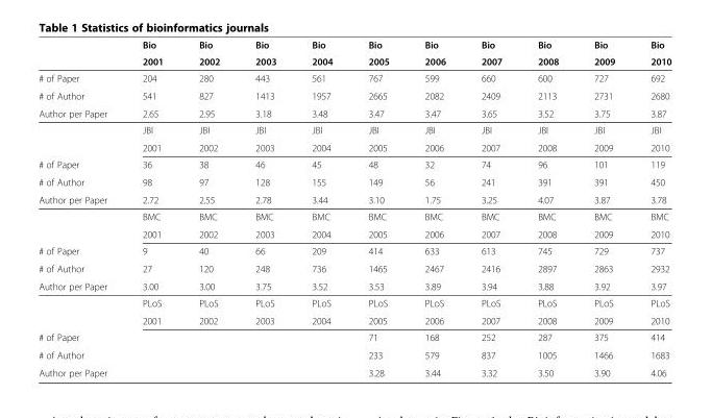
<table><thead><tr><td rowspan="2"></td><td rowspan="2">Bio 2001</td><td rowspan="2">Bio 2002</td><td rowspan="2">Bio 2003</td><td rowspan="2">Bio 2004</td><td rowspan="2">Bio 2005</td><td rowspan="2">Bio 2006</td><td rowspan="2">Bio 2007</td><td rowspan="2">Bio 2008</td><td rowspan="2">Bio 2009</td><td rowspan="2">Bio 2010</td></tr><tr></tr></thead><tbody><tr><td># of Paper</td><td>204</td><td>280</td><td>443</td><td>561</td><td>767</td><td>599</td><td>660</td><td>600</td><td>727</td><td>692</td></tr><tr><td># of Author</td><td>541</td><td>827</td><td>1413</td><td>1957</td><td>2665</td><td>2082</td><td>2409</td><td>2113</td><td>2731</td><td>2680</td></tr><tr><td rowspan="3">Author per Paper</td><td>2.65</td><td>2.95</td><td>3.18</td><td>3.48</td><td>3.47</td><td>3.47</td><td>3.65</td><td>3.52</td><td>3.75</td><td>3.87</td></tr><tr><td>JBI</td><td>JBI</td><td>JBI</td><td>JBI</td><td>JBI</td><td>JBI</td><td>JBI</td><td>JBI</td><td>JBI</td><td>JBI</td></tr><tr><td>2001</td><td>2002</td><td>2003</td><td>2004</td><td>2005</td><td>2006</td><td>2007</td><td>2008</td><td>2009</td><td>2010</td></tr><tr><td># of Paper</td><td>36</td><td>38</td><td>46</td><td>45</td><td>48</td><td>32</td><td>74</td><td>96</td><td>101</td><td>119</td></tr><tr><td># of Author</td><td>98</td><td>97</td><td>128</td><td>155</td><td>149</td><td>56</td><td>241</td><td>391</td><td>391</td><td>450</td></tr><tr><td rowspan="3">Author per Paper</td><td>2.72</td><td>2.55</td><td>2.78</td><td>3.44</td><td>3.10</td><td>1.75</td><td>3.25</td><td>4.07</td><td>3.87</td><td>3.78</td></tr><tr><td>BMC</td><td>BMC</td><td>BMC</td><td>BMC</td><td>BMC</td><td>BMC</td><td>BMC</td><td>BMC</td><td>BMC</td><td>BMC</td></tr><tr><td>2001</td><td>2002</td><td>2003</td><td>2004</td><td>2005</td><td>2006</td><td>2007</td><td>2008</td><td>2009</td><td>2010</td></tr><tr><td># of Paper</td><td>9</td><td>40</td><td>66</td><td>209</td><td>414</td><td>633</td><td>613</td><td>745</td><td>729</td><td>737</td></tr><tr><td># of Author</td><td>27</td><td>120</td><td>248</td><td>736</td><td>1465</td><td>2467</td><td>2416</td><td>2897</td><td>2863</td><td>2932</td></tr><tr><td rowspan="3">Author per Paper</td><td>3.00</td><td>3.00</td><td>3.75</td><td>3.52</td><td>3.53</td><td>3.89</td><td>3.94</td><td>3.88</td><td>3.92</td><td>3.97</td></tr><tr><td>PLoS</td><td>PLoS</td><td>PLoS</td><td>PLoS</td><td>PLoS</td><td>PLoS</td><td>PLoS</td><td>PLoS</td><td>PLoS</td><td>PLoS</td></tr><tr><td>2001</td><td>2002</td><td>2003</td><td>2004</td><td>2005</td><td>2006</td><td>2007</td><td>2008</td><td>2009</td><td>2010</td></tr><tr><td># of Paper</td><td></td><td></td><td></td><td></td><td>71</td><td>168</td><td>252</td><td>287</td><td>375</td><td>414</td></tr><tr><td># of Author</td><td></td><td></td><td></td><td></td><td>233</td><td>579</td><td>837</td><td>1005</td><td>1466</td><td>1683</td></tr><tr><td>Author per Paper</td><td></td><td></td><td></td><td></td><td>3.28</td><td>3.44</td><td>3.32</td><td>3.50</td><td>3.90</td><td>4.06</td></tr></tbody></table>